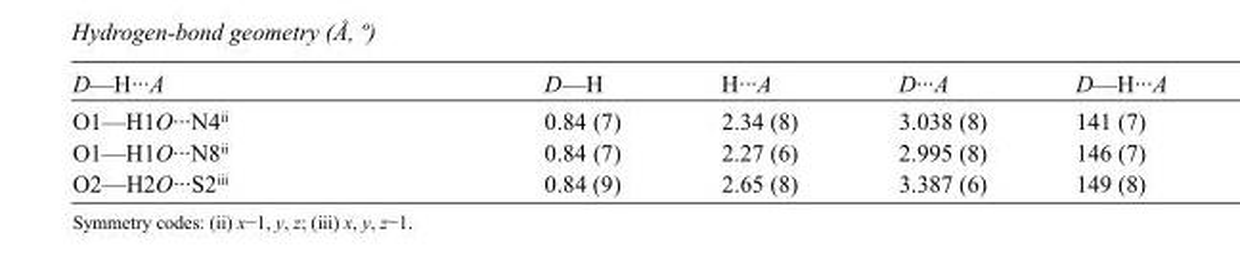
<table><tbody><tr><td>D—H···A</td><td>D—H</td><td>H···A</td><td>D···A</td><td>D—H···A</td></tr><tr><td>O1—H1O···N4<sup>ii</sup></td><td>0.84 (7)</td><td>2.34 (8)</td><td>3.038 (8)</td><td>141 (7)</td></tr><tr><td>O1—H1O···N8<sup>ii</sup></td><td>0.84 (7)</td><td>2.27 (6)</td><td>2.995 (8)</td><td>146 (7)</td></tr><tr><td>O2—H2O···S2<sup>iii</sup></td><td>0.84 (9)</td><td>2.65 (8)</td><td>3.387 (6)</td><td>149 (8)</td></tr></tbody></table>